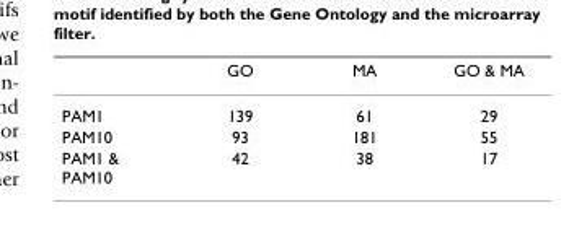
<table><thead><tr><td></td><td>GO</td><td>MA</td><td>GO &amp; MA</td></tr></thead><tbody><tr><td>PAM1</td><td>139</td><td>61</td><td>29</td></tr><tr><td>PAM10</td><td>93</td><td>181</td><td>55</td></tr><tr><td>PAM1 &amp; PAM10</td><td>42</td><td>38</td><td>17</td></tr></tbody></table>